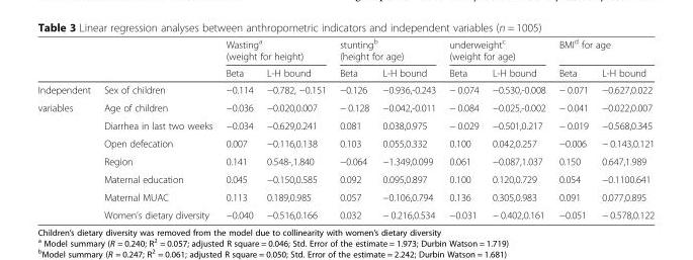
<table><thead><tr><td rowspan="2"></td><td rowspan="2"></td><td colspan="2">Wasting<sup>a</sup> (weight for height)</td><td colspan="2">stunting<sup>b</sup> (height for age)</td><td colspan="2">underweight<sup>c</sup> (weight for age)</td><td colspan="2">BMI<sup>d</sup> for age</td></tr><tr><td>Beta</td><td>L-H bound</td><td>Beta</td><td>L-H bound</td><td>Beta</td><td>L-H bound</td><td>Beta</td><td>L-H bound</td></tr></thead><tbody><tr><td>Independent</td><td>Sex of children</td><td>−0.114</td><td>−0.782, −0.151</td><td>−0.126</td><td>−0.936,-0.243</td><td>− 0.074</td><td>−0.530,-0.008</td><td>− 0.071</td><td>−0.627,0.022</td></tr><tr><td rowspan="7">variables</td><td>Age of children</td><td>−0.036</td><td>−0.020,0.007</td><td>− 0.128</td><td>−0.042,-0.011</td><td>− 0.084</td><td>−0.025,-0.002</td><td>− 0.041</td><td>−0.022,0.007</td></tr><tr><td>Diarrhea in last two weeks</td><td>−0.034</td><td>−0.629,0.241</td><td>0.081</td><td>0.038,0.975</td><td>− 0.029</td><td>−0.501,0.217</td><td>− 0.019</td><td>−0.568,0.345</td></tr><tr><td>Open defecation</td><td>0.007</td><td>−0.116,0.138</td><td>0.103</td><td>0.055,0.332</td><td>0.100</td><td>0.042,0.257</td><td>−0.006</td><td>− 0.143,0.121</td></tr><tr><td>Region</td><td>0.141</td><td>0.548-,1.840</td><td>−0.064</td><td>−1.349,0.099</td><td>0.061</td><td>−0.087,1.037</td><td>0.150</td><td>0.647,1.989</td></tr><tr><td>Maternal education</td><td>0.045</td><td>−0.150,0.585</td><td>0.092</td><td>0.095,0.897</td><td>0.100</td><td>0.120,0.729</td><td>0.054</td><td>−0.1100.641</td></tr><tr><td>Maternal MUAC</td><td>0.113</td><td>0.189,0.985</td><td>0.057</td><td>−0.106,0.794</td><td>0.136</td><td>0.305,0.983</td><td>0.091</td><td>0.077,0.895</td></tr><tr><td>Women’s dietary diversity</td><td>−0.040</td><td>−0.516,0.166</td><td>0.032</td><td>− 0.216,0.534</td><td>−0.031</td><td>− 0.402,0.161</td><td>−0.051</td><td>− 0.578,0.122</td></tr></tbody></table>